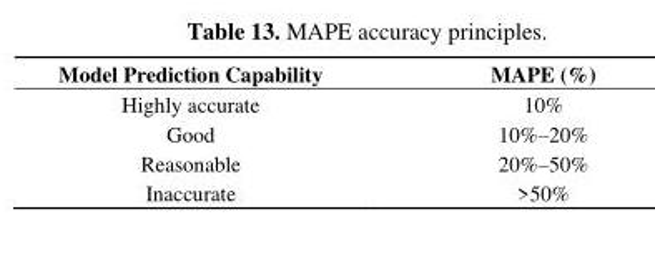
<table><thead><tr><td>Model Prediction Capability</td><td>MAPE (%)</td></tr></thead><tbody><tr><td>Highly accurate</td><td>10%</td></tr><tr><td>Good</td><td>10%–20%</td></tr><tr><td>Reasonable</td><td>20%–50%</td></tr><tr><td>Inaccurate</td><td>&gt;50%</td></tr></tbody></table>